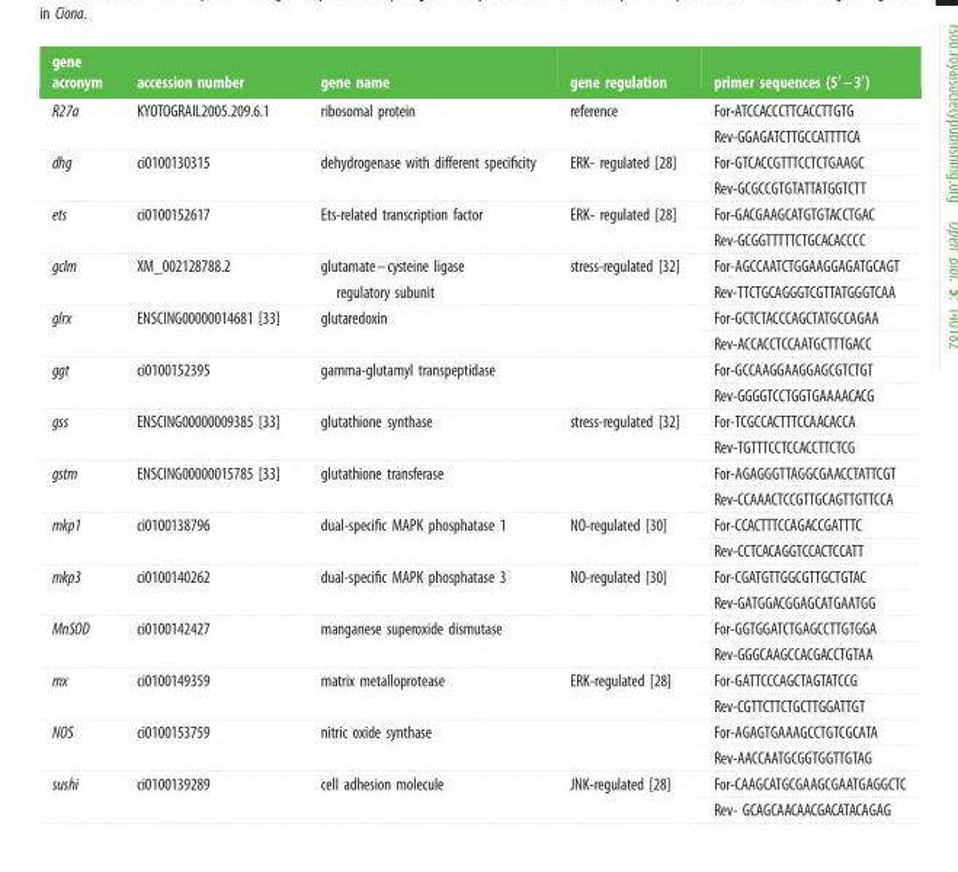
<table><thead><tr><td>gene acronym</td><td>accession number</td><td>gene name</td><td>gene regulation</td><td>primer sequences (5′ –3′)</td></tr></thead><tbody><tr><td rowspan="2">R27a</td><td rowspan="2">KYOTOGRAIL2005.209.6.1</td><td rowspan="2">ribosomal protein</td><td rowspan="2">reference</td><td>For-ATCCACCCTTCACCTTGTG</td></tr><tr><td>Rev-GGAGATCTTGCCATTTTCA</td></tr><tr><td rowspan="2">dhg</td><td rowspan="2">ci0100130315</td><td rowspan="2">dehydrogenase with different specificity</td><td rowspan="2">ERK- regulated [28]</td><td>For-GTCACCGTTTCCTCTGAAGC</td></tr><tr><td>Rev-GCGCCGTGTATTATGGTCTT</td></tr><tr><td rowspan="2">ets</td><td rowspan="2">ci0100152617</td><td rowspan="2">Ets-related transcription factor</td><td rowspan="2">ERK- regulated [28]</td><td>For-GACGAAGCATGTGTACCTGAC</td></tr><tr><td>Rev-GCGGTTTTTCTGCACACCCC</td></tr><tr><td rowspan="2">gclm</td><td rowspan="2">XM_002128788.2</td><td rowspan="2">glutamate–cysteine ligase regulatory subunit</td><td rowspan="2">stress-regulated [32]</td><td>For-AGCCAATCTGGAAGGAGATGCAGT</td></tr><tr><td>Rev-TTCTGCAGGGTCGTTATGGGTCAA</td></tr><tr><td rowspan="2">glrx</td><td rowspan="2">ENSCING00000014681 [33]</td><td rowspan="2">glutaredoxin</td><td rowspan="2"></td><td>For-GCTCTACCCAGCTATGCCAGAA</td></tr><tr><td>Rev-ACCACCTCCAATGCTTTGACC</td></tr><tr><td rowspan="2">ggt</td><td rowspan="2">ci0100152395</td><td rowspan="2">gamma-glutamyl transpeptidase</td><td rowspan="2"></td><td>For-GCCAAGGAAGGAGCGTCTGT</td></tr><tr><td>Rev-GGGGTCCTGGTGAAAACACG</td></tr><tr><td rowspan="2">gss</td><td rowspan="2">ENSCING00000009385 [33]</td><td rowspan="2">glutathione synthase</td><td rowspan="2">stress-regulated [32]</td><td>For-TCGCCACTTTCCAACACCA</td></tr><tr><td>Rev-TGTTTCCTCCACCTTCTCG</td></tr><tr><td rowspan="2">gstm</td><td rowspan="2">ENSCING00000015785 [33]</td><td rowspan="2">glutathione transferase</td><td rowspan="2"></td><td>For-AGAGGGTTAGGCGAACCTATTCGT</td></tr><tr><td>Rev-CCAAACTCCGTTGCAGTTGTTCCA</td></tr><tr><td rowspan="2">mkp1</td><td rowspan="2">ci0100138796</td><td rowspan="2">dual-specific MAPK phosphatase 1</td><td rowspan="2">NO-regulated [30]</td><td>For-CCACTTTCCAGACCGATTTC</td></tr><tr><td>Rev-CCTCACAGGTCCACTCCATT</td></tr><tr><td rowspan="2">mkp3</td><td rowspan="2">ci0100140262</td><td rowspan="2">dual-specific MAPK phosphatase 3</td><td rowspan="2">NO-regulated [30]</td><td>For-CGATGTTGGCGTTGCTGTAC</td></tr><tr><td>Rev-GATGGACGGAGCATGAATGG</td></tr><tr><td rowspan="2">MnSOD</td><td rowspan="2">ci0100142427</td><td rowspan="2">manganese superoxide dismutase</td><td rowspan="2"></td><td>For-GGTGGATCTGAGCCTTGTGGA</td></tr><tr><td>Rev-GGGCAAGCCACGACCTGTAA</td></tr><tr><td rowspan="2">mx</td><td rowspan="2">ci0100149359</td><td rowspan="2">matrix metalloprotease</td><td rowspan="2">ERK-regulated [28]</td><td>For-GATTCCCAGCTAGTATCCG</td></tr><tr><td>Rev-CGTTCTTCTGCTTGGATTGT</td></tr><tr><td rowspan="2">NOS</td><td rowspan="2">ci0100153759</td><td rowspan="2">nitric oxide synthase</td><td rowspan="2"></td><td>For-AGAGTGAAAGCCTGTCGCATA</td></tr><tr><td>Rev-AACCAATGCGGTGGTTGTAG</td></tr><tr><td rowspan="2">sushi</td><td rowspan="2">ci0100139289</td><td rowspan="2">cell adhesion molecule</td><td rowspan="2">JNK-regulated [28]</td><td>For-CAAGCATGCGAAGCGAATGAGGCTC</td></tr><tr><td>Rev- GCAGCAACAACGACATACAGAG</td></tr></tbody></table>